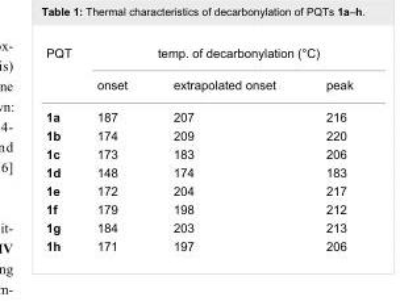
<table><tbody><tr><td rowspan="2">PQT</td><td colspan="3">temp. of decarbonylation (°C)</td></tr><tr><td>onset</td><td>extrapolated onset</td><td>peak</td></tr><tr><td>1a</td><td>187</td><td>207</td><td>216</td></tr><tr><td>1b</td><td>174</td><td>209</td><td>220</td></tr><tr><td>1c</td><td>173</td><td>183</td><td>206</td></tr><tr><td>1d</td><td>148</td><td>174</td><td>183</td></tr><tr><td>1e</td><td>172</td><td>204</td><td>217</td></tr><tr><td>1f</td><td>179</td><td>198</td><td>212</td></tr><tr><td>1g</td><td>184</td><td>203</td><td>213</td></tr><tr><td>1h</td><td>171</td><td>197</td><td>206</td></tr></tbody></table>